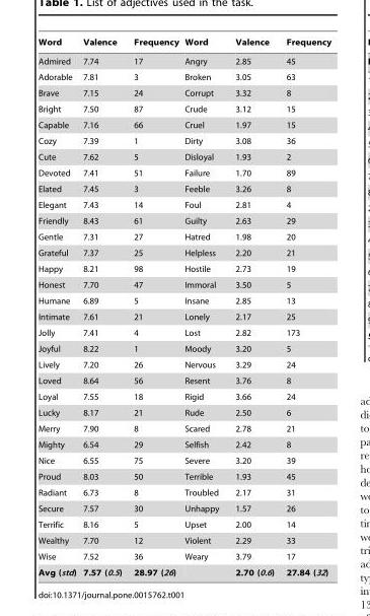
<table><thead><tr><td>Word</td><td>Valence</td><td>Frequency</td><td>Word</td><td>Valence</td><td>Frequency</td></tr></thead><tbody><tr><td>Admired</td><td>7.74</td><td>17</td><td>Angry</td><td>2.85</td><td>45</td></tr><tr><td>Adorable</td><td>7.81</td><td>3</td><td>Broken</td><td>3.05</td><td>63</td></tr><tr><td>Brave</td><td>7.15</td><td>24</td><td>Corrupt</td><td>3.32</td><td>8</td></tr><tr><td>Bright</td><td>7.50</td><td>87</td><td>Crude</td><td>3.12</td><td>15</td></tr><tr><td>Capable</td><td>7.16</td><td>66</td><td>Cruel</td><td>1.97</td><td>15</td></tr><tr><td>Cozy</td><td>7.39</td><td>1</td><td>Dirty</td><td>3.08</td><td>36</td></tr><tr><td>Cute</td><td>7.62</td><td>5</td><td>Disloyal</td><td>1.93</td><td>2</td></tr><tr><td>Devoted</td><td>7.41</td><td>51</td><td>Failure</td><td>1.70</td><td>89</td></tr><tr><td>Elated</td><td>7.45</td><td>3</td><td>Feeble</td><td>3.26</td><td>8</td></tr><tr><td>Elegant</td><td>7.43</td><td>14</td><td>Foul</td><td>2.81</td><td>4</td></tr><tr><td>Friendly</td><td>8.43</td><td>61</td><td>Guilty</td><td>2.63</td><td>29</td></tr><tr><td>Gentle</td><td>7.31</td><td>27</td><td>Hatred</td><td>1.98</td><td>20</td></tr><tr><td>Grateful</td><td>7.37</td><td>25</td><td>Helpless</td><td>2.20</td><td>21</td></tr><tr><td>Happy</td><td>8.21</td><td>98</td><td>Hostile</td><td>2.73</td><td>19</td></tr><tr><td>Honest</td><td>7.70</td><td>47</td><td>Immoral</td><td>3.50</td><td>5</td></tr><tr><td>Humane</td><td>6.89</td><td>5</td><td>Insane</td><td>2.85</td><td>13</td></tr><tr><td>Intimate</td><td>7.61</td><td>21</td><td>Lonely</td><td>2.17</td><td>25</td></tr><tr><td>Jolly</td><td>7.41</td><td>4</td><td>Lost</td><td>2.82</td><td>173</td></tr><tr><td>Joyful</td><td>8.22</td><td>1</td><td>Moody</td><td>3.20</td><td>5</td></tr><tr><td>Lively</td><td>7.20</td><td>26</td><td>Nervous</td><td>3.29</td><td>24</td></tr><tr><td>Loved</td><td>8.64</td><td>56</td><td>Resent</td><td>3.76</td><td>8</td></tr><tr><td>Loyal</td><td>7.55</td><td>18</td><td>Rigid</td><td>3.66</td><td>24</td></tr><tr><td>Lucky</td><td>8.17</td><td>21</td><td>Rude</td><td>2.50</td><td>6</td></tr><tr><td>Merry</td><td>7.90</td><td>8</td><td>Scared</td><td>2.78</td><td>21</td></tr><tr><td>Mighty</td><td>6.54</td><td>29</td><td>Selfish</td><td>2.42</td><td>8</td></tr><tr><td>Nice</td><td>6.55</td><td>75</td><td>Severe</td><td>3.20</td><td>39</td></tr><tr><td>Proud</td><td>8.03</td><td>50</td><td>Terrible</td><td>1.93</td><td>45</td></tr><tr><td>Radiant</td><td>6.73</td><td>8</td><td>Troubled</td><td>2.17</td><td>31</td></tr><tr><td>Secure</td><td>7.57</td><td>30</td><td>Unhappy</td><td>1.57</td><td>26</td></tr><tr><td>Terrific</td><td>8.16</td><td>5</td><td>Upset</td><td>2.00</td><td>14</td></tr><tr><td>Wealthy</td><td>7.70</td><td>12</td><td>Violent</td><td>2.29</td><td>33</td></tr><tr><td>Wise</td><td>7.52</td><td>36</td><td>Weary</td><td>3.79</td><td>17</td></tr><tr><td>Avg (std)</td><td>7.57 (0.5)</td><td>28.97 (26)</td><td></td><td>2.70 (0.6)</td><td>27.84 (32)</td></tr></tbody></table>